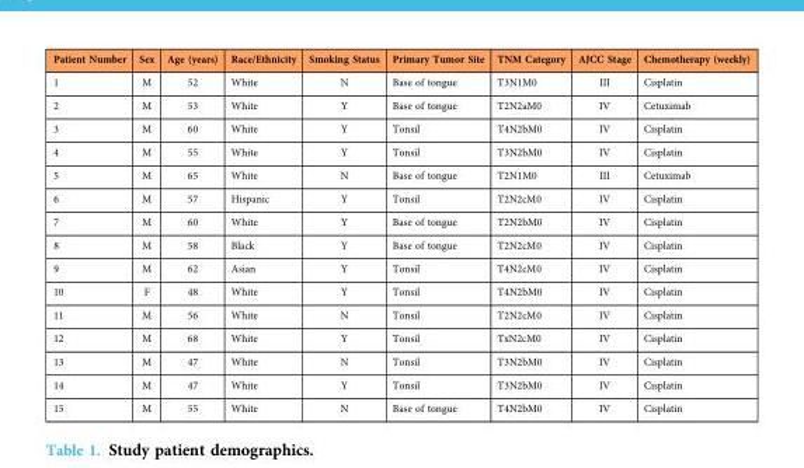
<table><thead><tr><td>Patient Number</td><td>Sex</td><td>Age (years)</td><td>Race/Ethnicity</td><td>Smoking Status</td><td>Primary Tumor Site</td><td>TNM Category</td><td>AJCC Stage</td><td>Chemotherapy (weekly)</td></tr></thead><tbody><tr><td>1</td><td>M</td><td>52</td><td>White</td><td>N</td><td>Base of tongue</td><td>T3N1M0</td><td>III</td><td>Cisplatin</td></tr><tr><td>2</td><td>M</td><td>53</td><td>White</td><td>Y</td><td>Base of tongue</td><td>T2N2aM0</td><td>IV</td><td>Cetuximab</td></tr><tr><td>3</td><td>M</td><td>60</td><td>White</td><td>Y</td><td>Tonsil</td><td>T4N2bM0</td><td>IV</td><td>Cisplatin</td></tr><tr><td>4</td><td>M</td><td>55</td><td>White</td><td>Y</td><td>Tonsil</td><td>T3N2bM0</td><td>IV</td><td>Cisplatin</td></tr><tr><td>5</td><td>M</td><td>65</td><td>White</td><td>N</td><td>Base of tongue</td><td>T2N1M0</td><td>III</td><td>Cetuximab</td></tr><tr><td>6</td><td>M</td><td>57</td><td>Hispanic</td><td>Y</td><td>Tonsil</td><td>T2N2cM0</td><td>IV</td><td>Cisplatin</td></tr><tr><td>7</td><td>M</td><td>60</td><td>White</td><td>Y</td><td>Base of tongue</td><td>T2N2bM0</td><td>IV</td><td>Cisplatin</td></tr><tr><td>8</td><td>M</td><td>58</td><td>Black</td><td>Y</td><td>Base of tongue</td><td>T2N2cM0</td><td>IV</td><td>Cisplatin</td></tr><tr><td>9</td><td>M</td><td>62</td><td>Asian</td><td>Y</td><td>Tonsil</td><td>T4N2cM0</td><td>IV</td><td>Cisplatin</td></tr><tr><td>10</td><td>F</td><td>48</td><td>White</td><td>Y</td><td>Tonsil</td><td>T4N2bM0</td><td>IV</td><td>Cisplatin</td></tr><tr><td>11</td><td>M</td><td>56</td><td>White</td><td>N</td><td>Tonsil</td><td>T2N2cM0</td><td>IV</td><td>Cisplatin</td></tr><tr><td>12</td><td>M</td><td>68</td><td>White</td><td>Y</td><td>Tonsil</td><td>TxN2cM0</td><td>IV</td><td>Cisplatin</td></tr><tr><td>13</td><td>M</td><td>47</td><td>White</td><td>N</td><td>Tonsil</td><td>T3N2bM0</td><td>IV</td><td>Cisplatin</td></tr><tr><td>14</td><td>M</td><td>47</td><td>White</td><td>Y</td><td>Tonsil</td><td>T3N2bM0</td><td>IV</td><td>Cisplatin</td></tr><tr><td>15</td><td>M</td><td>55</td><td>White</td><td>N</td><td>Base of tongue</td><td>T4N2bM0</td><td>IV</td><td>Cisplatin</td></tr></tbody></table>